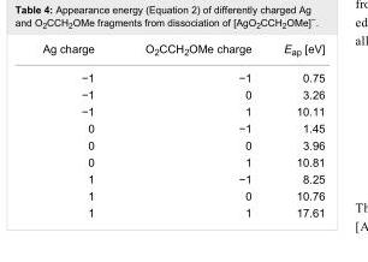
<table><tbody><tr><td>Ag charge</td><td>O<sub>2</sub>CCH<sub>2</sub>OMe charge</td><td>E<sub>ap</sub> [eV]</td></tr><tr><td>−1</td><td>−1</td><td>0.75</td></tr><tr><td>−1</td><td>0</td><td>3.26</td></tr><tr><td>−1</td><td>1</td><td>10.11</td></tr><tr><td>0</td><td>−1</td><td>1.45</td></tr><tr><td>0</td><td>0</td><td>3.96</td></tr><tr><td>0</td><td>1</td><td>10.81</td></tr><tr><td>1</td><td>−1</td><td>8.25</td></tr><tr><td>1</td><td>0</td><td>10.76</td></tr><tr><td>1</td><td>1</td><td>17.61</td></tr></tbody></table>